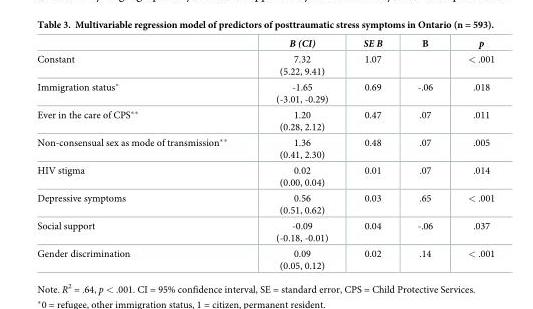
<table><thead><tr><td></td><td>B (CI)</td><td>SE B</td><td>B</td><td>p</td></tr></thead><tbody><tr><td>Constant</td><td>7.32 (5.22, 9.41)</td><td>1.07</td><td></td><td>&lt; .001</td></tr><tr><td>Immigration status*</td><td>-1.65 (-3.01, -0.29)</td><td>0.69</td><td>-.06</td><td>.018</td></tr><tr><td>Ever in the care of CPS**</td><td>1.20 (0.28, 2.12)</td><td>0.47</td><td>.07</td><td>.011</td></tr><tr><td>Non-consensual sex as mode of transmission**</td><td>1.36 (0.41, 2.30)</td><td>0.48</td><td>.07</td><td>.005</td></tr><tr><td>HIV stigma</td><td>0.02 (0.00, 0.04)</td><td>0.01</td><td>.07</td><td>.014</td></tr><tr><td>Depressive symptoms</td><td>0.56 (0.51, 0.62)</td><td>0.03</td><td>.65</td><td>&lt; .001</td></tr><tr><td>Social support</td><td>-0.09 (-0.18, -0.01)</td><td>0.04</td><td>-.06</td><td>.037</td></tr><tr><td>Gender discrimination</td><td>0.09 (0.05, 0.12)</td><td>0.02</td><td>.14</td><td>&lt; .001</td></tr></tbody></table>